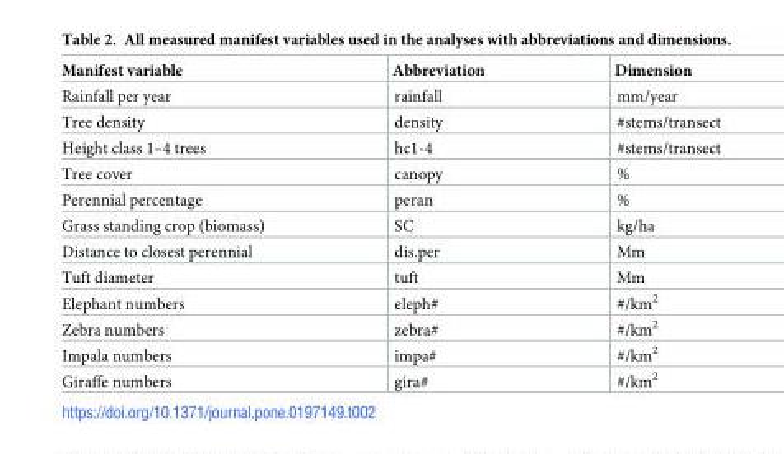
<table><thead><tr><td>Manifest variable</td><td>Abbreviation</td><td>Dimension</td></tr></thead><tbody><tr><td>Rainfall per year</td><td>rainfall</td><td>mm/year</td></tr><tr><td>Tree density</td><td>density</td><td>#stems/transect</td></tr><tr><td>Height class 1–4 trees</td><td>hc1-4</td><td>#stems/transect</td></tr><tr><td>Tree cover</td><td>canopy</td><td>%</td></tr><tr><td>Perennial percentage</td><td>peran</td><td>%</td></tr><tr><td>Grass standing crop (biomass)</td><td>SC</td><td>kg/ha</td></tr><tr><td>Distance to closest perennial</td><td>dis.per</td><td>Mm</td></tr><tr><td>Tuft diameter</td><td>tuft</td><td>Mm</td></tr><tr><td>Elephant numbers</td><td>eleph#</td><td>#/km<sup>2</sup></td></tr><tr><td>Zebra numbers</td><td>zebra#</td><td>#/km<sup>2</sup></td></tr><tr><td>Impala numbers</td><td>impa#</td><td>#/km<sup>2</sup></td></tr><tr><td>Giraffe numbers</td><td>gira#</td><td>#/km<sup>2</sup></td></tr></tbody></table>